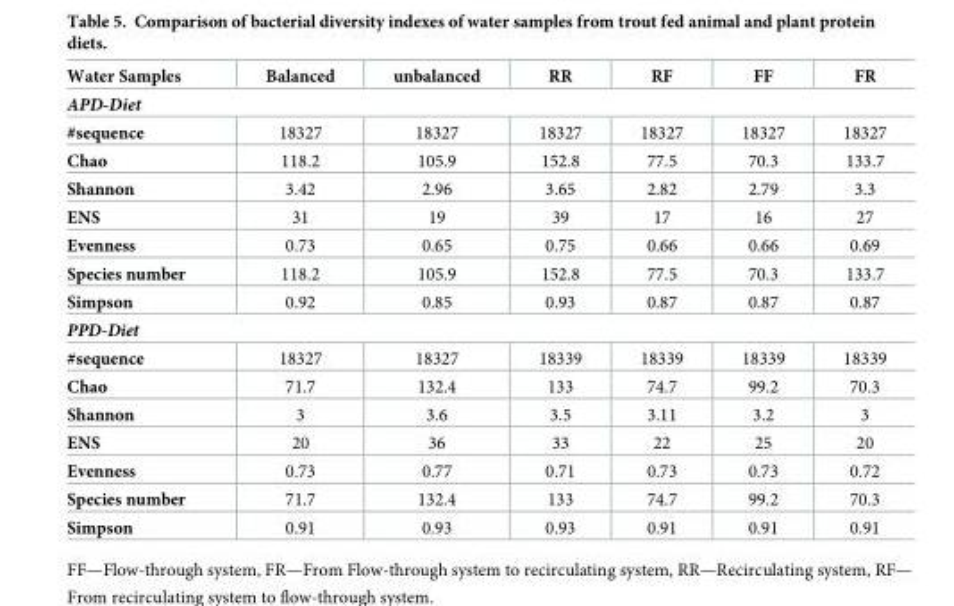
<table><thead><tr><td>Water Samples</td><td>Balanced</td><td>unbalanced</td><td>RR</td><td>RF</td><td>FF</td><td>FR</td></tr></thead><tbody><tr><td colspan="7">APD-Diet</td></tr><tr><td>#sequence</td><td>18327</td><td>18327</td><td>18327</td><td>18327</td><td>18327</td><td>18327</td></tr><tr><td>Chao</td><td>118.2</td><td>105.9</td><td>152.8</td><td>77.5</td><td>70.3</td><td>133.7</td></tr><tr><td>Shannon</td><td>3.42</td><td>2.96</td><td>3.65</td><td>2.82</td><td>2.79</td><td>3.3</td></tr><tr><td>ENS</td><td>31</td><td>19</td><td>39</td><td>17</td><td>16</td><td>27</td></tr><tr><td>Evenness</td><td>0.73</td><td>0.65</td><td>0.75</td><td>0.66</td><td>0.66</td><td>0.69</td></tr><tr><td>Species number</td><td>118.2</td><td>105.9</td><td>152.8</td><td>77.5</td><td>70.3</td><td>133.7</td></tr><tr><td>Simpson</td><td>0.92</td><td>0.85</td><td>0.93</td><td>0.87</td><td>0.87</td><td>0.87</td></tr><tr><td colspan="7">PPD-Diet</td></tr><tr><td>#sequence</td><td>18327</td><td>18327</td><td>18339</td><td>18339</td><td>18339</td><td>18339</td></tr><tr><td>Chao</td><td>71.7</td><td>132.4</td><td>133</td><td>74.7</td><td>99.2</td><td>70.3</td></tr><tr><td>Shannon</td><td>3</td><td>3.6</td><td>3.5</td><td>3.11</td><td>3.2</td><td>3</td></tr><tr><td>ENS</td><td>20</td><td>36</td><td>33</td><td>22</td><td>25</td><td>20</td></tr><tr><td>Evenness</td><td>0.73</td><td>0.77</td><td>0.71</td><td>0.73</td><td>0.73</td><td>0.72</td></tr><tr><td>Species number</td><td>71.7</td><td>132.4</td><td>133</td><td>74.7</td><td>99.2</td><td>70.3</td></tr><tr><td>Simpson</td><td>0.91</td><td>0.93</td><td>0.93</td><td>0.91</td><td>0.91</td><td>0.91</td></tr></tbody></table>